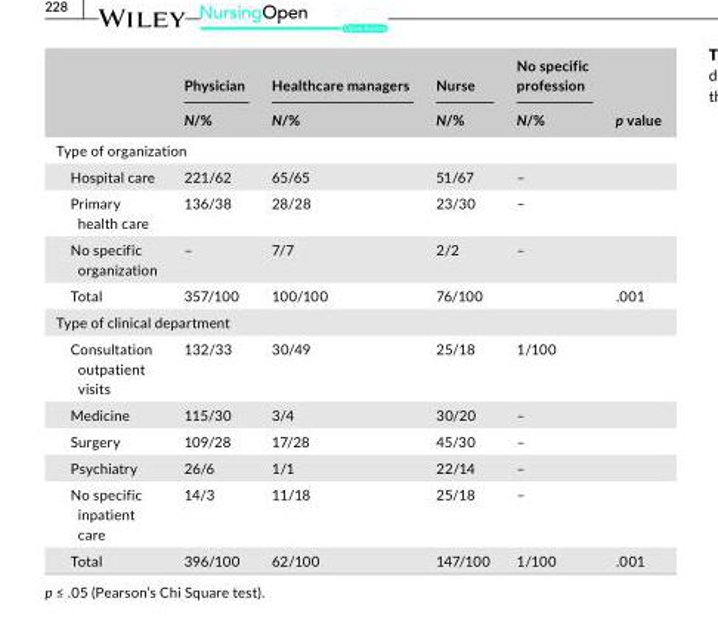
<table><thead><tr><td rowspan="2"></td><td rowspan="2">Physician N/%</td><td rowspan="2">Healthcare managers N/%</td><td rowspan="2">Nurse N/%</td><td rowspan="2">No specific profession N/%</td><td rowspan="2">p value</td></tr><tr></tr></thead><tbody><tr><td colspan="6">Type of organization</td></tr><tr><td>Hospital care</td><td>221/62</td><td>65/65</td><td>51/67</td><td>–</td><td></td></tr><tr><td>Primary health care</td><td>136/38</td><td>28/28</td><td>23/30</td><td>–</td><td></td></tr><tr><td>No specific organization</td><td>–</td><td>7/7</td><td>2/2</td><td>–</td><td></td></tr><tr><td>Total</td><td>357/100</td><td>100/100</td><td>76/100</td><td></td><td>.001</td></tr><tr><td colspan="6">Type of clinical department</td></tr><tr><td>Consultation outpatient visits</td><td>132/33</td><td>30/49</td><td>25/18</td><td>1/100</td><td></td></tr><tr><td>Medicine</td><td>115/30</td><td>3/4</td><td>30/20</td><td>–</td><td></td></tr><tr><td>Surgery</td><td>109/28</td><td>17/28</td><td>45/30</td><td>–</td><td></td></tr><tr><td>Psychiatry</td><td>26/6</td><td>1/1</td><td>22/14</td><td>–</td><td></td></tr><tr><td>No specific inpatient care</td><td>14/3</td><td>11/18</td><td>25/18</td><td>–</td><td></td></tr><tr><td>Total</td><td>396/100</td><td>62/100</td><td>147/100</td><td>1/100</td><td>.001</td></tr></tbody></table>